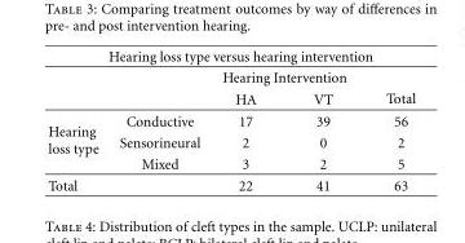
<table><thead><tr><td colspan="5">Hearing loss type versus hearing intervention</td></tr><tr><td rowspan="2"></td><td rowspan="2"></td><td colspan="2">Hearing Intervention</td><td rowspan="2">Total</td></tr><tr><td>HA</td><td>VT</td></tr></thead><tbody><tr><td rowspan="3">Hearing loss type</td><td>Conductive</td><td>17</td><td>39</td><td>56</td></tr><tr><td>Sensorineural</td><td>2</td><td>0</td><td>2</td></tr><tr><td>Mixed</td><td>3</td><td>2</td><td>5</td></tr><tr><td>Total</td><td></td><td>22</td><td>41</td><td>63</td></tr></tbody></table>